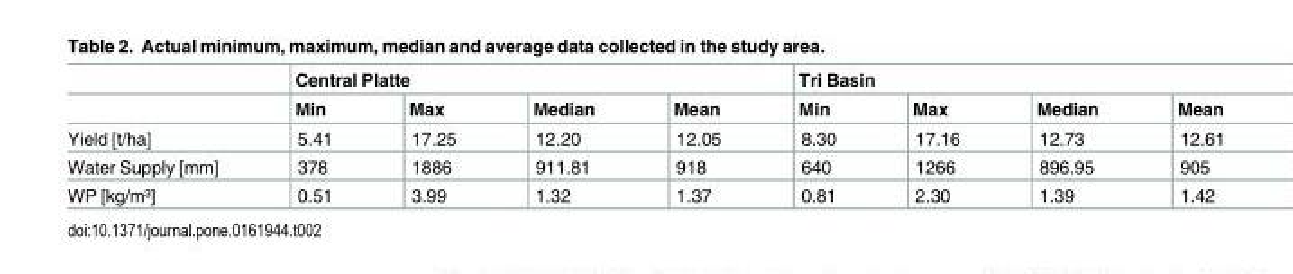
<table><thead><tr><td rowspan="2"></td><td colspan="4">Central Platte</td><td colspan="4">Tri Basin</td></tr><tr><td>Min</td><td>Max</td><td>Median</td><td>Mean</td><td>Min</td><td>Max</td><td>Median</td><td>Mean</td></tr></thead><tbody><tr><td>Yield [t/ha]</td><td>5.41</td><td>17.25</td><td>12.20</td><td>12.05</td><td>8.30</td><td>17.16</td><td>12.73</td><td>12.61</td></tr><tr><td>Water Supply [mm]</td><td>378</td><td>1886</td><td>911.81</td><td>918</td><td>640</td><td>1266</td><td>896.95</td><td>905</td></tr><tr><td>WP [kg/m³]</td><td>0.51</td><td>3.99</td><td>1.32</td><td>1.37</td><td>0.81</td><td>2.30</td><td>1.39</td><td>1.42</td></tr></tbody></table>